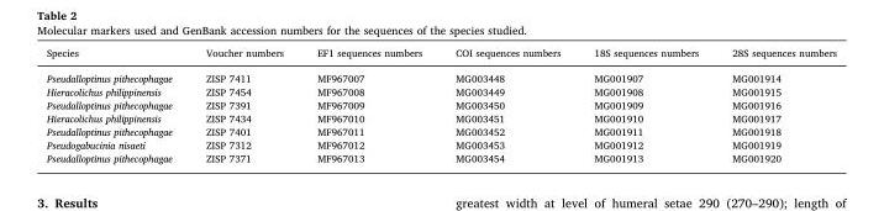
<table><thead><tr><td>Species</td><td>Voucher numbers</td><td>EF1 sequences numbers</td><td>COI sequences numbers</td><td>18S sequences numbers</td><td>28S sequences numbers</td></tr></thead><tbody><tr><td>Pseudalloptinus pithecophagae</td><td>ZISP 7411</td><td>MF967007</td><td>MG003448</td><td>MG001907</td><td>MG001914</td></tr><tr><td>Hieracolichus philippinensis</td><td>ZISP 7454</td><td>MF967008</td><td>MG003449</td><td>MG001908</td><td>MG001915</td></tr><tr><td>Pseudalloptinus pithecophagae</td><td>ZISP 7391</td><td>MF967009</td><td>MG003450</td><td>MG001909</td><td>MG001916</td></tr><tr><td>Hieracolichus philippinensis</td><td>ZISP 7434</td><td>MF967010</td><td>MG003451</td><td>MG001910</td><td>MG001917</td></tr><tr><td>Pseudalloptinus pithecophagae</td><td>ZISP 7401</td><td>MF967011</td><td>MG003452</td><td>MG001911</td><td>MG001918</td></tr><tr><td>Pseudogabucinia nisaeti</td><td>ZISP 7312</td><td>MF967012</td><td>MG003453</td><td>MG001912</td><td>MG001919</td></tr><tr><td>Pseudalloptinus pithecophagae</td><td>ZISP 7371</td><td>MF967013</td><td>MG003454</td><td>MG001913</td><td>MG001920</td></tr></tbody></table>